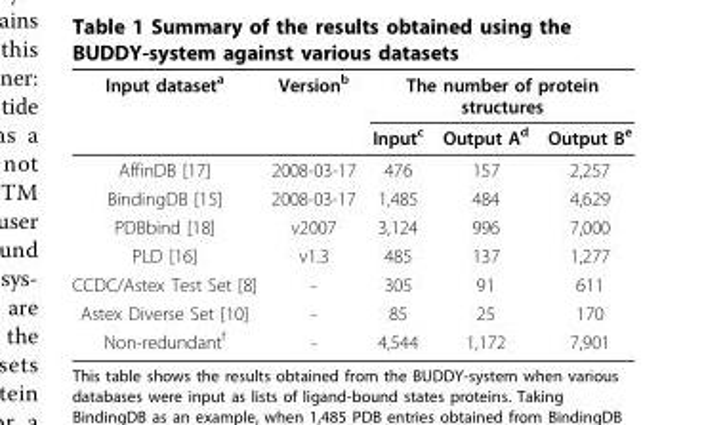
<table><thead><tr><td rowspan="2">Input dataset<sup>a</sup></td><td rowspan="2">Version<sup>b</sup></td><td colspan="3">The number of protein structures</td></tr><tr><td>Input<sup>c</sup></td><td>Output A<sup>d</sup></td><td>Output B<sup>e</sup></td></tr></thead><tbody><tr><td>AffinDB [17]</td><td>2008-03-17</td><td>476</td><td>157</td><td>2,257</td></tr><tr><td>BindingDB [15]</td><td>2008-03-17</td><td>1,485</td><td>484</td><td>4,629</td></tr><tr><td>PDBbind [18]</td><td>v2007</td><td>3,124</td><td>996</td><td>7,000</td></tr><tr><td>PLD [16]</td><td>v1.3</td><td>485</td><td>137</td><td>1,277</td></tr><tr><td>CCDC/Astex Test Set [8]</td><td>-</td><td>305</td><td>91</td><td>611</td></tr><tr><td>Astex Diverse Set [10]</td><td>-</td><td>85</td><td>25</td><td>170</td></tr><tr><td>Non-redundant<sup>f</sup></td><td>-</td><td>4,544</td><td>1,172</td><td>7,901</td></tr></tbody></table>